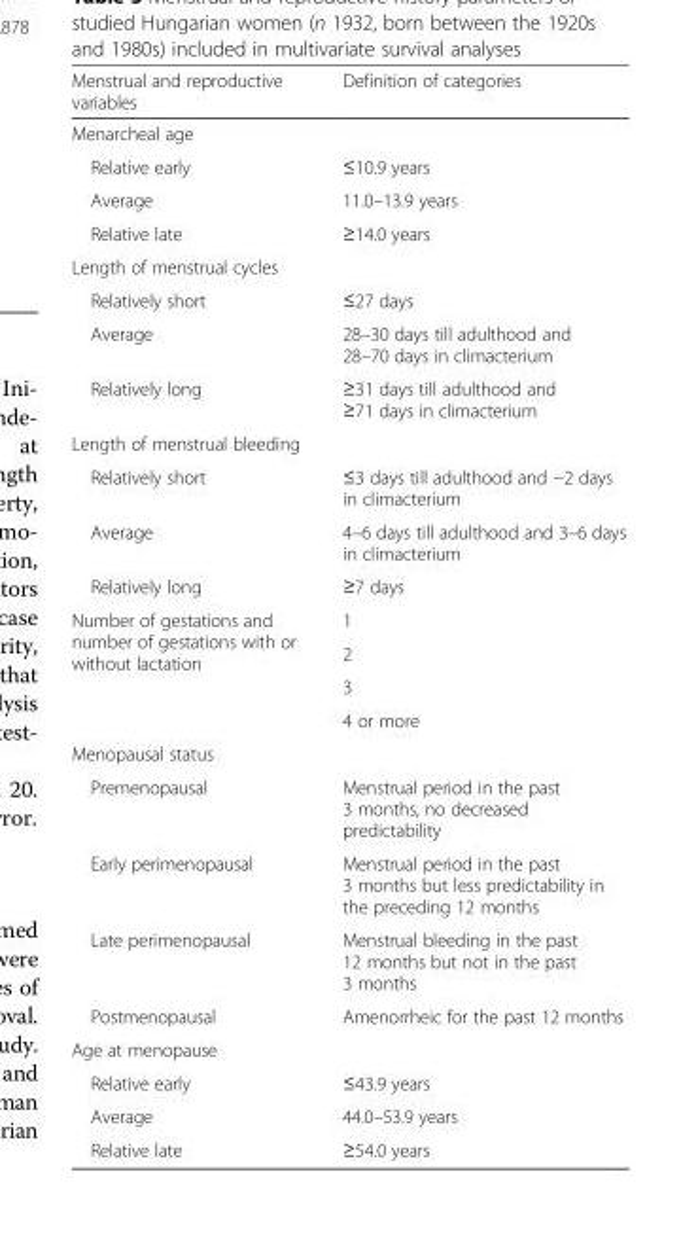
<table><thead><tr><td>Menstrual and reproductive variables</td><td>Definition of categories</td></tr></thead><tbody><tr><td colspan="2">Menarcheal age</td></tr><tr><td>Relative early</td><td>≤10.9 years</td></tr><tr><td>Average</td><td>11.0–13.9 years</td></tr><tr><td>Relative late</td><td>≥14.0 years</td></tr><tr><td colspan="2">Length of menstrual cycles</td></tr><tr><td>Relatively short</td><td>≤27 days</td></tr><tr><td>Average</td><td>28–30 days till adulthood and 28–70 days in climacterium</td></tr><tr><td>Relatively long</td><td>≥31 days till adulthood and ≥71 days in climacterium</td></tr><tr><td colspan="2">Length of menstrual bleeding</td></tr><tr><td>Relatively short</td><td>≤3 days till adulthood and −2 days in climacterium</td></tr><tr><td>Average</td><td>4–6 days till adulthood and 3–6 days in climacterium</td></tr><tr><td>Relatively long</td><td>≥7 days</td></tr><tr><td rowspan="4">Number of gestations and number of gestations with or without lactation</td><td>1</td></tr><tr><td>2</td></tr><tr><td>3</td></tr><tr><td>4 or more</td></tr><tr><td colspan="2">Menopausal status</td></tr><tr><td>Premenopausal</td><td>Menstrual period in the past 3 months, no decreased predictability</td></tr><tr><td>Early perimenopausal</td><td>Menstrual period in the past 3 months but less predictability in the preceding 12 months</td></tr><tr><td>Late perimenopausal</td><td>Menstrual bleeding in the past 12 months but not in the past 3 months</td></tr><tr><td>Postmenopausal</td><td>Amenorrheic for the past 12 months</td></tr><tr><td colspan="2">Age at menopause</td></tr><tr><td>Relative early</td><td>≤43.9 years</td></tr><tr><td>Average</td><td>44.0–53.9 years</td></tr><tr><td>Relative late</td><td>≥54.0 years</td></tr></tbody></table>